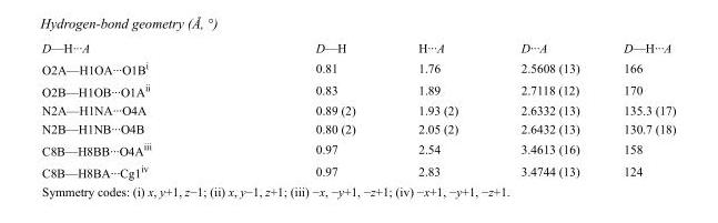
<table><tbody><tr><td>D—H···A</td><td>D—H</td><td>H···A</td><td>D···A</td><td>D—H···A</td></tr><tr><td>O2A—H1OA···O1B<sup>i</sup></td><td>0.81</td><td>1.76</td><td>2.5608 (13)</td><td>166</td></tr><tr><td>O2B—H1OB···O1A<sup>ii</sup></td><td>0.83</td><td>1.89</td><td>2.7118 (12)</td><td>170</td></tr><tr><td>N2A—H1NA···O4A</td><td>0.89 (2)</td><td>1.93 (2)</td><td>2.6332 (13)</td><td>135.3 (17)</td></tr><tr><td>N2B—H1NB···O4B</td><td>0.80 (2)</td><td>2.05 (2)</td><td>2.6432 (13)</td><td>130.7 (18)</td></tr><tr><td>C8B—H8BB···O4A<sup>iii</sup></td><td>0.97</td><td>2.54</td><td>3.4613 (16)</td><td>158</td></tr><tr><td>C8B—H8BA···Cg1<sup>iv</sup></td><td>0.97</td><td>2.83</td><td>3.4744 (13)</td><td>124</td></tr></tbody></table>